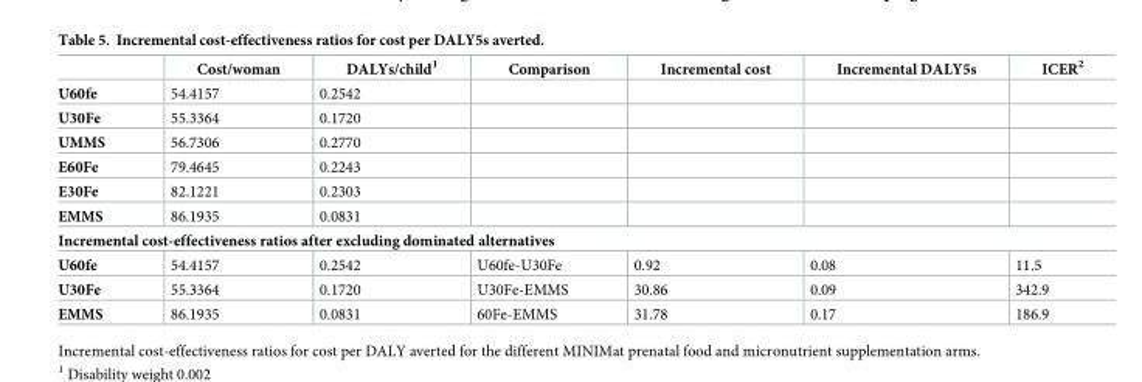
<table><thead><tr><td></td><td>Cost/woman</td><td>DALYs/child<sup>1</sup></td><td>Comparison</td><td>Incremental cost</td><td>Incremental DALY5s</td><td>ICER<sup>2</sup></td></tr></thead><tbody><tr><td>U60fe</td><td>54.4157</td><td>0.2542</td><td></td><td></td><td></td><td></td></tr><tr><td>U30Fe</td><td>55.3364</td><td>0.1720</td><td></td><td></td><td></td><td></td></tr><tr><td>UMMS</td><td>56.7306</td><td>0.2770</td><td></td><td></td><td></td><td></td></tr><tr><td>E60Fe</td><td>79.4645</td><td>0.2243</td><td></td><td></td><td></td><td></td></tr><tr><td>E30Fe</td><td>82.1221</td><td>0.2303</td><td></td><td></td><td></td><td></td></tr><tr><td>EMMS</td><td>86.1935</td><td>0.0831</td><td></td><td></td><td></td><td></td></tr><tr><td colspan="7">Incremental cost-effectiveness ratios after excluding dominated alternatives</td></tr><tr><td>U60fe</td><td>54.4157</td><td>0.2542</td><td>U60fe-U30Fe</td><td>0.92</td><td>0.08</td><td>11.5</td></tr><tr><td>U30Fe</td><td>55.3364</td><td>0.1720</td><td>U30Fe-EMMS</td><td>30.86</td><td>0.09</td><td>342.9</td></tr><tr><td>EMMS</td><td>86.1935</td><td>0.0831</td><td>60Fe-EMMS</td><td>31.78</td><td>0.17</td><td>186.9</td></tr></tbody></table>